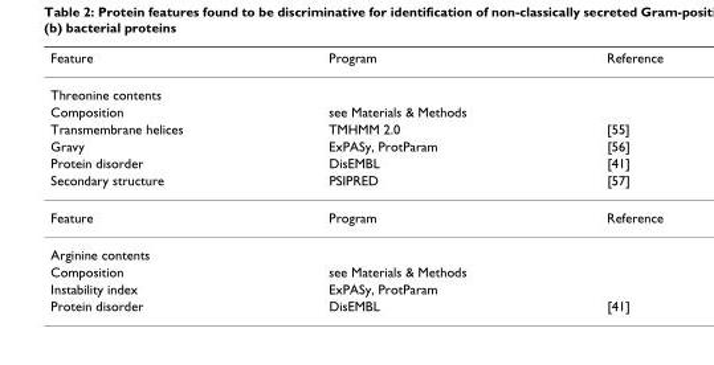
<table><thead><tr><td>Feature</td><td>Program</td><td>Reference</td></tr></thead><tbody><tr><td colspan="3">Threonine contents</td></tr><tr><td>Composition</td><td>see Materials &amp; Methods</td><td></td></tr><tr><td>Transmembrane helices</td><td>TMHMM 2.0</td><td>[55]</td></tr><tr><td>Gravy</td><td>ExPASy, ProtParam</td><td>[56]</td></tr><tr><td>Protein disorder</td><td>DisEMBL</td><td>[41]</td></tr><tr><td>Secondary structure</td><td>PSIPRED</td><td>[57]</td></tr><tr><td>Feature</td><td>Program</td><td>Reference</td></tr><tr><td colspan="3">Arginine contents</td></tr><tr><td>Composition</td><td>see Materials &amp; Methods</td><td></td></tr><tr><td>Instability index</td><td>ExPASy, ProtParam</td><td></td></tr><tr><td>Protein disorder</td><td>DisEMBL</td><td>[41]</td></tr></tbody></table>